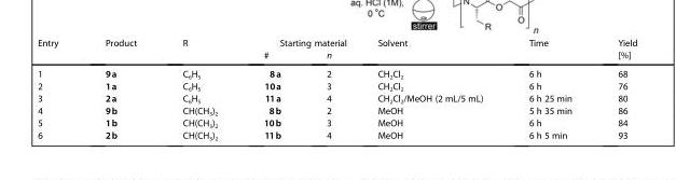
<table><thead><tr><td rowspan="2">Entry</td><td rowspan="2">Product</td><td rowspan="2">R</td><td colspan="2">Starting material</td><td rowspan="2">Solvent</td><td rowspan="2">Time</td><td rowspan="2">Yield [%]</td></tr><tr><td>#</td><td>n</td></tr></thead><tbody><tr><td>1</td><td>9a</td><td>C<sub>6</sub>H<sub>5</sub></td><td>8a</td><td>2</td><td>CH<sub>2</sub>Cl<sub>2</sub></td><td>6 h</td><td>68</td></tr><tr><td>2</td><td>1a</td><td>C<sub>6</sub>H<sub>5</sub></td><td>10a</td><td>3</td><td>CH<sub>2</sub>Cl<sub>2</sub></td><td>6 h</td><td>76</td></tr><tr><td>3</td><td>2a</td><td>C<sub>6</sub>H<sub>5</sub></td><td>11a</td><td>4</td><td>CH<sub>2</sub>Cl<sub>2</sub>/MeOH (2 mL/5 mL)</td><td>6 h 25 min</td><td>80</td></tr><tr><td>4</td><td>9b</td><td>CH(CH<sub>3</sub>)<sub>2</sub></td><td>8b</td><td>2</td><td>MeOH</td><td>5 h 35 min</td><td>86</td></tr><tr><td>5</td><td>1b</td><td>CH(CH<sub>3</sub>)<sub>2</sub></td><td>10b</td><td>3</td><td>MeOH</td><td>6 h</td><td>84</td></tr><tr><td>6</td><td>2b</td><td>CH(CH<sub>3</sub>)<sub>2</sub></td><td>11b</td><td>4</td><td>MeOH</td><td>6 h 5 min</td><td>93</td></tr></tbody></table>